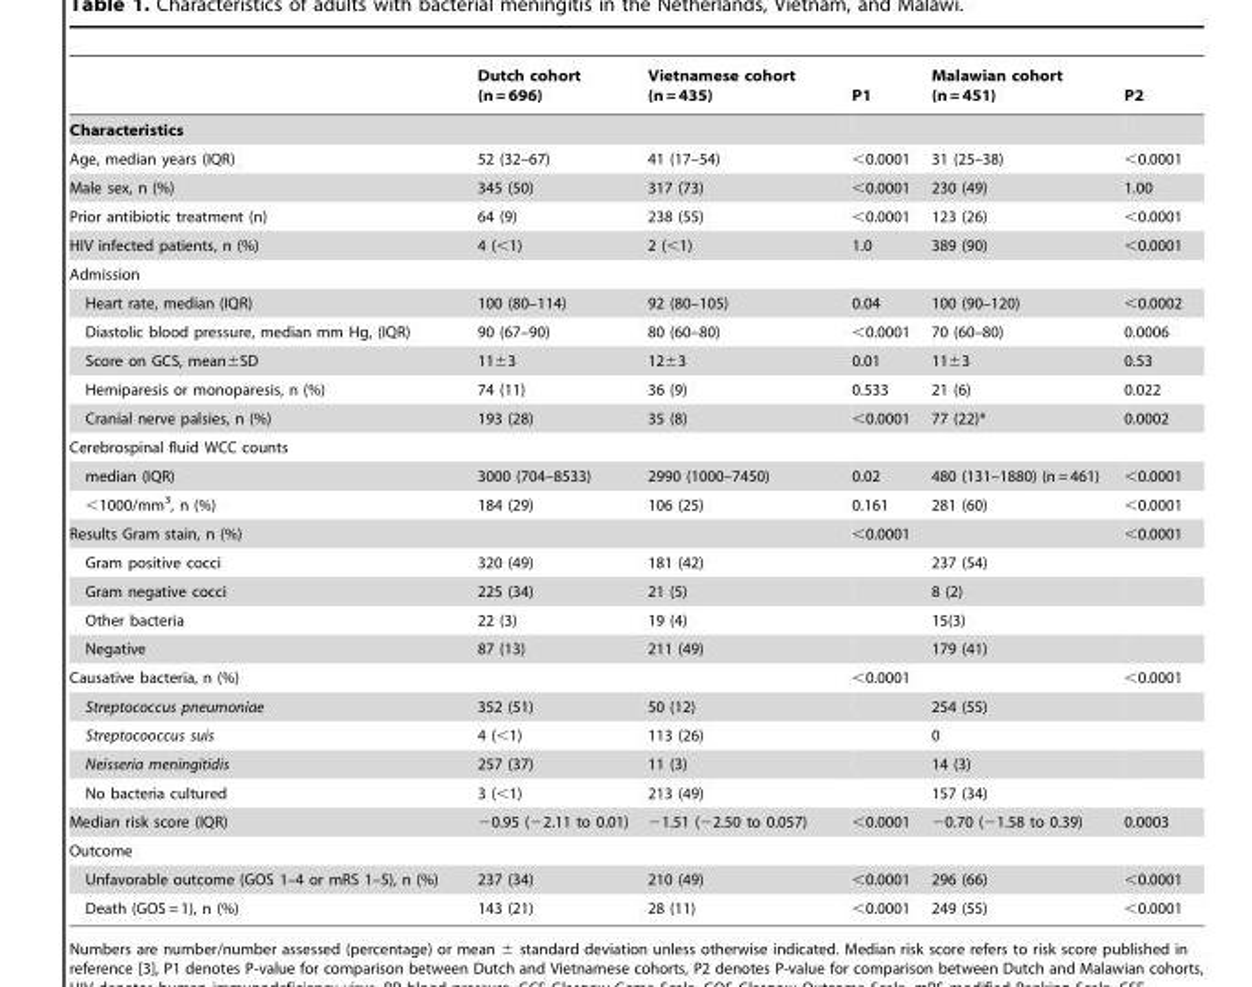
<table><thead><tr><td></td><td>Dutch cohort (n = 696)</td><td>Vietnamese cohort (n = 435)</td><td>P1</td><td>Malawian cohort (n = 451)</td><td>P2</td></tr></thead><tbody><tr><td colspan="6">Characteristics</td></tr><tr><td>Age, median years (IQR)</td><td>52 (32–67)</td><td>41 (17–54)</td><td>&lt;0.0001</td><td>31 (25–38)</td><td>&lt;0.0001</td></tr><tr><td>Male sex, n (%)</td><td>345 (50)</td><td>317 (73)</td><td>&lt;0.0001</td><td>230 (49)</td><td>1.00</td></tr><tr><td>Prior antibiotic treatment (n)</td><td>64 (9)</td><td>238 (55)</td><td>&lt;0.0001</td><td>123 (26)</td><td>&lt;0.0001</td></tr><tr><td>HIV infected patients, n (%)</td><td>4 (&lt;1)</td><td>2 (&lt;1)</td><td>1.0</td><td>389 (90)</td><td>&lt;0.0001</td></tr><tr><td colspan="6">Admission</td></tr><tr><td>Heart rate, median (IQR)</td><td>100 (80–114)</td><td>92 (80–105)</td><td>0.04</td><td>100 (90–120)</td><td>&lt;0.0002</td></tr><tr><td>Diastolic blood pressure, median mm Hg, (IQR)</td><td>90 (67–90)</td><td>80 (60–80)</td><td>&lt;0.0001</td><td>70 (60–80)</td><td>0.0006</td></tr><tr><td>Score on GCS, mean±SD</td><td>11±3</td><td>12±3</td><td>0.01</td><td>11±3</td><td>0.53</td></tr><tr><td>Hemiparesis or monoparesis, n (%)</td><td>74 (11)</td><td>36 (9)</td><td>0.533</td><td>21 (6)</td><td>0.022</td></tr><tr><td>Cranial nerve palsies, n (%)</td><td>193 (28)</td><td>35 (8)</td><td>&lt;0.0001</td><td>77 (22)*</td><td>0.0002</td></tr><tr><td colspan="6">Cerebrospinal fluid WCC counts</td></tr><tr><td>median (IQR)</td><td>3000 (704–8533)</td><td>2990 (1000–7450)</td><td>0.02</td><td>480 (131–1880) (n = 461)</td><td>&lt;0.0001</td></tr><tr><td>&lt;1000/mm<sup>3</sup>, n (%)</td><td>184 (29)</td><td>106 (25)</td><td>0.161</td><td>281 (60)</td><td>&lt;0.0001</td></tr><tr><td>Results Gram stain, n (%)</td><td></td><td></td><td>&lt;0.0001</td><td></td><td>&lt;0.0001</td></tr><tr><td>Gram positive cocci</td><td>320 (49)</td><td>181 (42)</td><td></td><td>237 (54)</td><td></td></tr><tr><td>Gram negative cocci</td><td>225 (34)</td><td>21 (5)</td><td></td><td>8 (2)</td><td></td></tr><tr><td>Other bacteria</td><td>22 (3)</td><td>19 (4)</td><td></td><td>15(3)</td><td></td></tr><tr><td>Negative</td><td>87 (13)</td><td>211 (49)</td><td></td><td>179 (41)</td><td></td></tr><tr><td>Causative bacteria, n (%)</td><td></td><td></td><td>&lt;0.0001</td><td></td><td>&lt;0.0001</td></tr><tr><td>Streptococcus pneumoniae</td><td>352 (51)</td><td>50 (12)</td><td></td><td>254 (55)</td><td></td></tr><tr><td>Streptocooccus suis</td><td>4 (&lt;1)</td><td>113 (26)</td><td></td><td>0</td><td></td></tr><tr><td>Neisseria meningitidis</td><td>257 (37)</td><td>11 (3)</td><td></td><td>14 (3)</td><td></td></tr><tr><td>No bacteria cultured</td><td>3 (&lt;1)</td><td>213 (49)</td><td></td><td>157 (34)</td><td></td></tr><tr><td>Median risk score (IQR)</td><td>−0.95 (−2.11 to 0.01)</td><td>−1.51 (−2.50 to 0.057)</td><td>&lt;0.0001</td><td>−0.70 (−1.58 to 0.39)</td><td>0.0003</td></tr><tr><td colspan="6">Outcome</td></tr><tr><td>Unfavorable outcome (GOS 1–4 or mRS 1–5), n (%)</td><td>237 (34)</td><td>210 (49)</td><td>&lt;0.0001</td><td>296 (66)</td><td>&lt;0.0001</td></tr><tr><td>Death (GOS = 1), n (%)</td><td>143 (21)</td><td>28 (11)</td><td>&lt;0.0001</td><td>249 (55)</td><td>&lt;0.0001</td></tr></tbody></table>